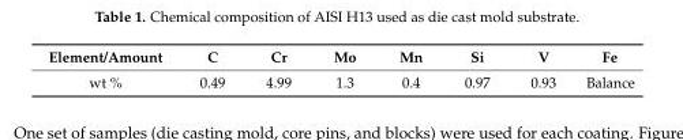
<table><thead><tr><td>Element/Amount</td><td>C</td><td>Cr</td><td>Mo</td><td>Mn</td><td>Si</td><td>V</td><td>Fe</td></tr></thead><tbody><tr><td>wt %</td><td>0.49</td><td>4.99</td><td>1.3</td><td>0.4</td><td>0.97</td><td>0.93</td><td>Balance</td></tr></tbody></table>